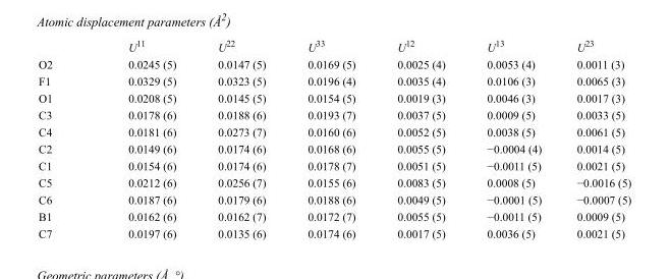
<table><thead><tr><td></td><td>U<sup>11</sup></td><td>U<sup>22</sup></td><td>U<sup>33</sup></td><td>U<sup>12</sup></td><td>U<sup>13</sup></td><td>U<sup>23</sup></td></tr></thead><tbody><tr><td>O2</td><td>0.0245 (5)</td><td>0.0147 (5)</td><td>0.0169 (5)</td><td>0.0025 (4)</td><td>0.0053 (4)</td><td>0.0011 (3)</td></tr><tr><td>F1</td><td>0.0329 (5)</td><td>0.0323 (5)</td><td>0.0196 (4)</td><td>0.0035 (4)</td><td>0.0106 (3)</td><td>0.0065 (3)</td></tr><tr><td>O1</td><td>0.0208 (5)</td><td>0.0145 (5)</td><td>0.0154 (5)</td><td>0.0019 (3)</td><td>0.0046 (3)</td><td>0.0017 (3)</td></tr><tr><td>C3</td><td>0.0178 (6)</td><td>0.0188 (6)</td><td>0.0193 (7)</td><td>0.0037 (5)</td><td>0.0009 (5)</td><td>0.0033 (5)</td></tr><tr><td>C4</td><td>0.0181 (6)</td><td>0.0273 (7)</td><td>0.0160 (6)</td><td>0.0052 (5)</td><td>0.0038 (5)</td><td>0.0061 (5)</td></tr><tr><td>C2</td><td>0.0149 (6)</td><td>0.0174 (6)</td><td>0.0168 (6)</td><td>0.0055 (5)</td><td>−0.0004 (4)</td><td>0.0014 (5)</td></tr><tr><td>C1</td><td>0.0154 (6)</td><td>0.0174 (6)</td><td>0.0178 (7)</td><td>0.0051 (5)</td><td>−0.0011 (5)</td><td>0.0021 (5)</td></tr><tr><td>C5</td><td>0.0212 (6)</td><td>0.0256 (7)</td><td>0.0155 (6)</td><td>0.0083 (5)</td><td>0.0008 (5)</td><td>−0.0016 (5)</td></tr><tr><td>C6</td><td>0.0187 (6)</td><td>0.0179 (6)</td><td>0.0188 (6)</td><td>0.0049 (5)</td><td>−0.0001 (5)</td><td>−0.0007 (5)</td></tr><tr><td>B1</td><td>0.0162 (6)</td><td>0.0162 (7)</td><td>0.0172 (7)</td><td>0.0055 (5)</td><td>−0.0011 (5)</td><td>0.0009 (5)</td></tr><tr><td>C7</td><td>0.0197 (6)</td><td>0.0135 (6)</td><td>0.0174 (6)</td><td>0.0017 (5)</td><td>0.0036 (5)</td><td>0.0021 (5)</td></tr></tbody></table>